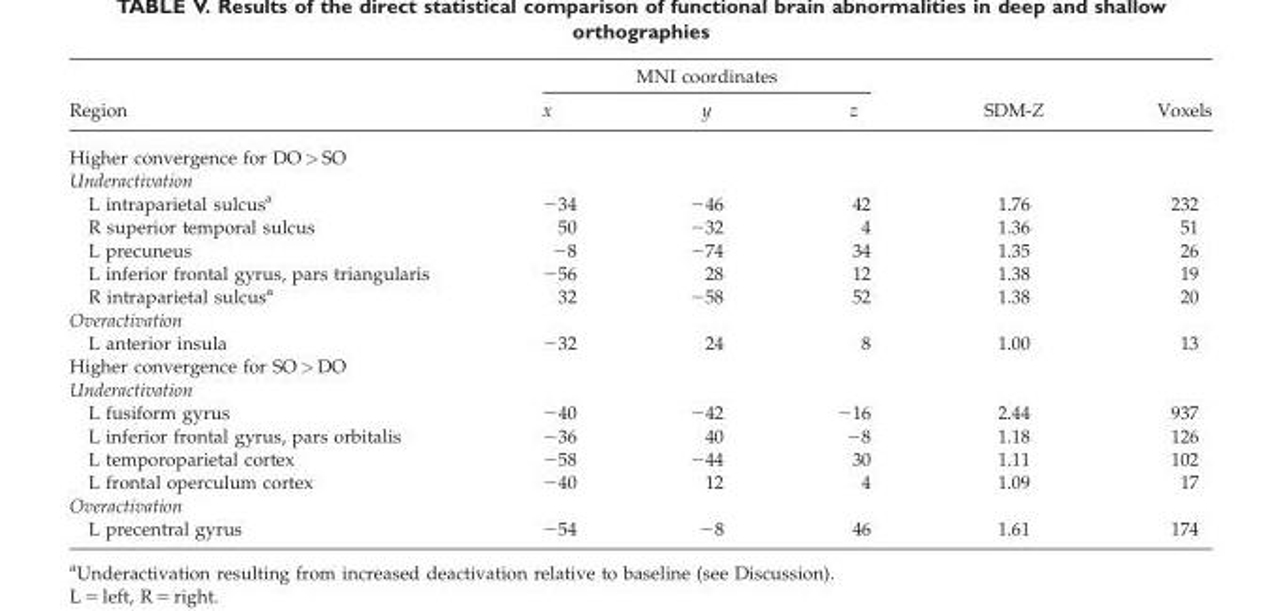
<table><thead><tr><td rowspan="2">Region</td><td colspan="3">MNI coordinates</td><td rowspan="2">SDM-Z</td><td rowspan="2">Voxels</td></tr><tr><td>x</td><td>y</td><td>z</td></tr></thead><tbody><tr><td colspan="6">Higher convergence for DO &gt; SO</td></tr><tr><td colspan="6">Underactivation</td></tr><tr><td>L intraparietal sulcus<sup>a</sup></td><td>−34</td><td>−46</td><td>42</td><td>1.76</td><td>232</td></tr><tr><td>R superior temporal sulcus</td><td>50</td><td>−32</td><td>4</td><td>1.36</td><td>51</td></tr><tr><td>L precuneus</td><td>−8</td><td>−74</td><td>34</td><td>1.35</td><td>26</td></tr><tr><td>L inferior frontal gyrus, pars triangularis</td><td>−56</td><td>28</td><td>12</td><td>1.38</td><td>19</td></tr><tr><td>R intraparietal sulcus<sup>a</sup></td><td>32</td><td>−58</td><td>52</td><td>1.38</td><td>20</td></tr><tr><td colspan="6">Overactivation</td></tr><tr><td>L anterior insula</td><td>−32</td><td>24</td><td>8</td><td>1.00</td><td>13</td></tr><tr><td colspan="6">Higher convergence for SO &gt; DO</td></tr><tr><td colspan="6">Underactivation</td></tr><tr><td>L fusiform gyrus</td><td>−40</td><td>−42</td><td>−16</td><td>2.44</td><td>937</td></tr><tr><td>L inferior frontal gyrus, pars orbitalis</td><td>−36</td><td>40</td><td>−8</td><td>1.18</td><td>126</td></tr><tr><td>L temporoparietal cortex</td><td>−58</td><td>−44</td><td>30</td><td>1.11</td><td>102</td></tr><tr><td>L frontal operculum cortex</td><td>−40</td><td>12</td><td>4</td><td>1.09</td><td>17</td></tr><tr><td colspan="6">Overactivation</td></tr><tr><td>L precentral gyrus</td><td>−54</td><td>−8</td><td>46</td><td>1.61</td><td>174</td></tr></tbody></table>